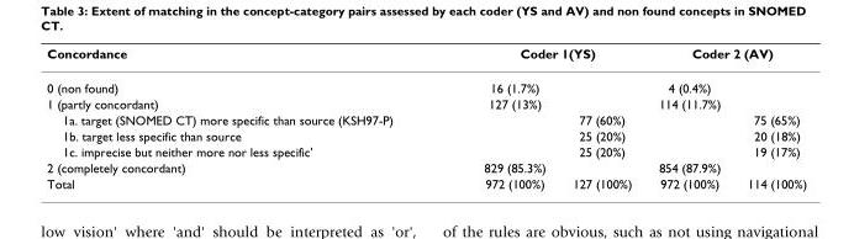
<table><thead><tr><td rowspan="2">Concordance 0 (non found)</td><td colspan="2">Coder 1(YS)</td><td colspan="2">Coder 2 (AV)</td></tr><tr><td>16 (1.7%)</td><td></td><td>4 (0.4%)</td><td></td></tr></thead><tbody><tr><td>1 (partly concordant)</td><td>127 (13%)</td><td></td><td>114 (11.7%)</td><td></td></tr><tr><td>1a. target (SNOMED CT) more specific than source (KSH97-P)</td><td></td><td>77 (60%)</td><td></td><td>75 (65%)</td></tr><tr><td>1b. target less specific than source</td><td></td><td>25 (20%)</td><td></td><td>20 (18%)</td></tr><tr><td>1c. imprecise but neither more nor less specific&#x27;</td><td></td><td>25 (20%)</td><td></td><td>19 (17%)</td></tr><tr><td>2 (completely concordant)</td><td>829 (85.3%)</td><td></td><td>854 (87.9%)</td><td></td></tr><tr><td>Total</td><td>972 (100%)</td><td>127 (100%)</td><td>972 (100%)</td><td>114 (100%)</td></tr></tbody></table>